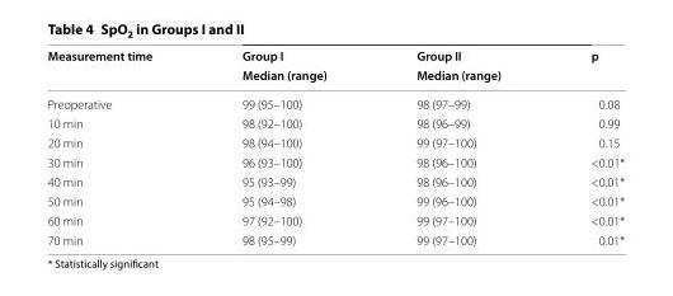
<table><thead><tr><td rowspan="2">Measurement time</td><td rowspan="2">Group I Median (range)</td><td rowspan="2">Group II Median (range)</td><td rowspan="2">p</td></tr><tr></tr></thead><tbody><tr><td>Preoperative</td><td>99 (95–100)</td><td>98 (97–99)</td><td>0.08</td></tr><tr><td>10 min</td><td>98 (92–100)</td><td>98 (96–99)</td><td>0.99</td></tr><tr><td>20 min</td><td>98 (94–100)</td><td>99 (97–100)</td><td>0.15</td></tr><tr><td>30 min</td><td>96 (93–100)</td><td>98 (96–100)</td><td>&lt;0.01*</td></tr><tr><td>40 min</td><td>95 (93–99)</td><td>98 (96–100)</td><td>&lt;0.01*</td></tr><tr><td>50 min</td><td>95 (94–98)</td><td>99 (96–100)</td><td>&lt;0.01*</td></tr><tr><td>60 min</td><td>97 (92–100)</td><td>99 (97–100)</td><td>&lt;0.01*</td></tr><tr><td>70 min</td><td>98 (95–99)</td><td>99 (97–100)</td><td>0.01*</td></tr></tbody></table>